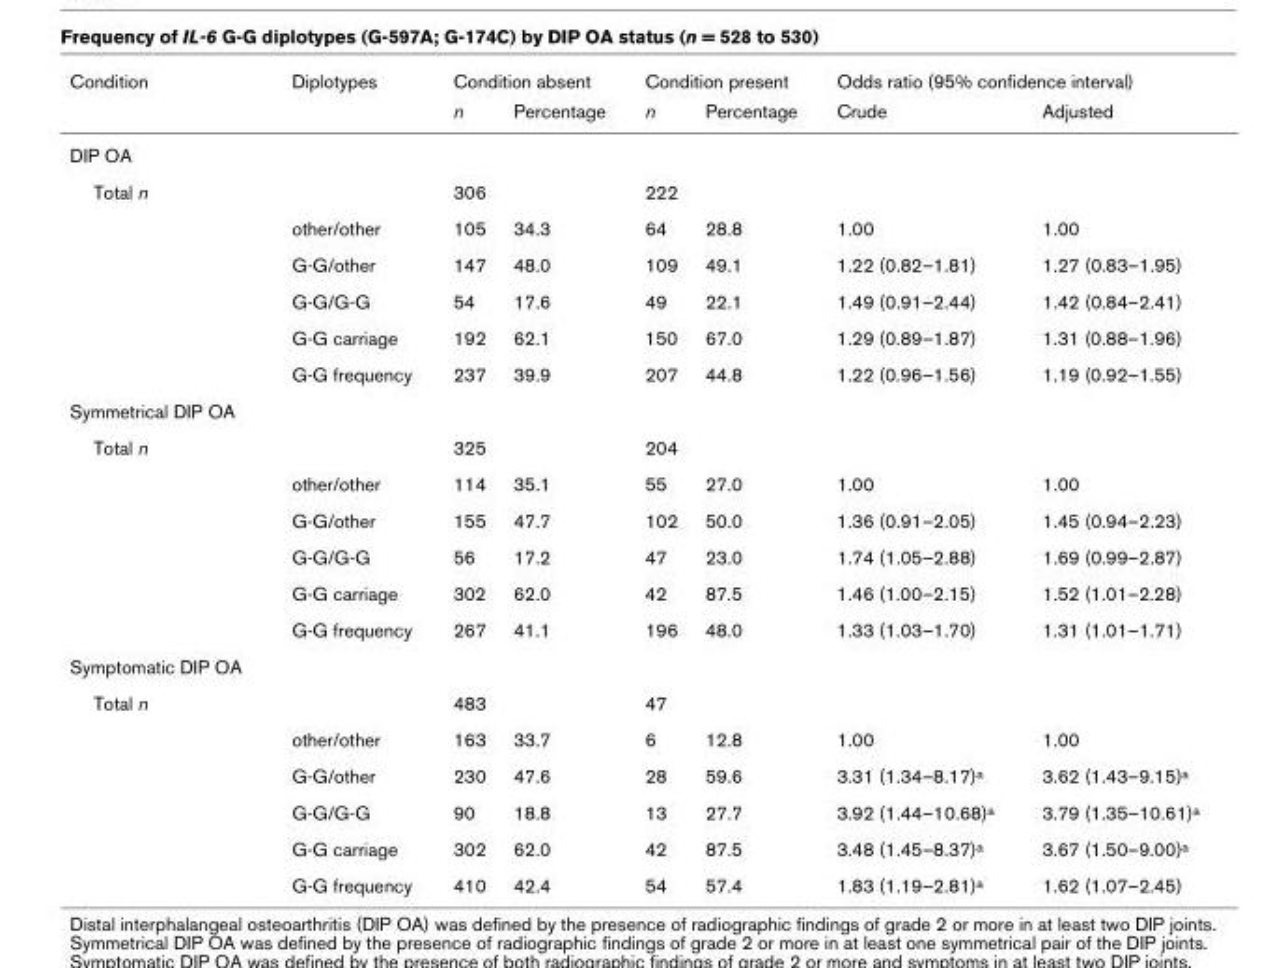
<table><thead><tr><td rowspan="2">Condition</td><td rowspan="2">Diplotypes</td><td colspan="2">Condition absent</td><td colspan="2">Condition present</td><td colspan="2">Odds ratio (95% confidence interval)</td></tr><tr><td>n</td><td>Percentage</td><td>n</td><td>Percentage</td><td>Crude</td><td>Adjusted</td></tr></thead><tbody><tr><td colspan="8">DIP OA</td></tr><tr><td rowspan="6">Total n</td><td></td><td>306</td><td></td><td>222</td><td></td><td></td><td></td></tr><tr><td>other/other</td><td>105</td><td>34.3</td><td>64</td><td>28.8</td><td>1.00</td><td>1.00</td></tr><tr><td>G-G/other</td><td>147</td><td>48.0</td><td>109</td><td>49.1</td><td>1.22 (0.82–1.81)</td><td>1.27 (0.83–1.95)</td></tr><tr><td>G-G/G-G</td><td>54</td><td>17.6</td><td>49</td><td>22.1</td><td>1.49 (0.91–2.44)</td><td>1.42 (0.84–2.41)</td></tr><tr><td>G-G carriage</td><td>192</td><td>62.1</td><td>150</td><td>67.0</td><td>1.29 (0.89–1.87)</td><td>1.31 (0.88–1.96)</td></tr><tr><td>G-G frequency</td><td>237</td><td>39.9</td><td>207</td><td>44.8</td><td>1.22 (0.96–1.56)</td><td>1.19 (0.92–1.55)</td></tr><tr><td colspan="8">Symmetrical DIP OA</td></tr><tr><td rowspan="6">Total n</td><td></td><td>325</td><td></td><td>204</td><td></td><td></td><td></td></tr><tr><td>other/other</td><td>114</td><td>35.1</td><td>55</td><td>27.0</td><td>1.00</td><td>1.00</td></tr><tr><td>G-G/other</td><td>155</td><td>47.7</td><td>102</td><td>50.0</td><td>1.36 (0.91–2.05)</td><td>1.45 (0.94–2.23)</td></tr><tr><td>G-G/G-G</td><td>56</td><td>17.2</td><td>47</td><td>23.0</td><td>1.74 (1.05–2.88)</td><td>1.69 (0.99–2.87)</td></tr><tr><td>G-G carriage</td><td>302</td><td>62.0</td><td>42</td><td>87.5</td><td>1.46 (1.00–2.15)</td><td>1.52 (1.01–2.28)</td></tr><tr><td>G-G frequency</td><td>267</td><td>41.1</td><td>196</td><td>48.0</td><td>1.33 (1.03–1.70)</td><td>1.31 (1.01–1.71)</td></tr><tr><td colspan="8">Symptomatic DIP OA</td></tr><tr><td rowspan="6">Total n</td><td></td><td>483</td><td></td><td>47</td><td></td><td></td><td></td></tr><tr><td>other/other</td><td>163</td><td>33.7</td><td>6</td><td>12.8</td><td>1.00</td><td>1.00</td></tr><tr><td>G-G/other</td><td>230</td><td>47.6</td><td>28</td><td>59.6</td><td>3.31 (1.34–8.17)<sup>a</sup></td><td>3.62 (1.43–9.15)<sup>a</sup></td></tr><tr><td>G-G/G-G</td><td>90</td><td>18.8</td><td>13</td><td>27.7</td><td>3.92 (1.44–10.68)<sup>a</sup></td><td>3.79 (1.35–10.61)<sup>a</sup></td></tr><tr><td>G-G carriage</td><td>302</td><td>62.0</td><td>42</td><td>87.5</td><td>3.48 (1.45–8.37)<sup>a</sup></td><td>3.67 (1.50–9.00)<sup>a</sup></td></tr><tr><td>G-G frequency</td><td>410</td><td>42.4</td><td>54</td><td>57.4</td><td>1.83 (1.19–2.81)<sup>a</sup></td><td>1.62 (1.07–2.45)</td></tr></tbody></table>